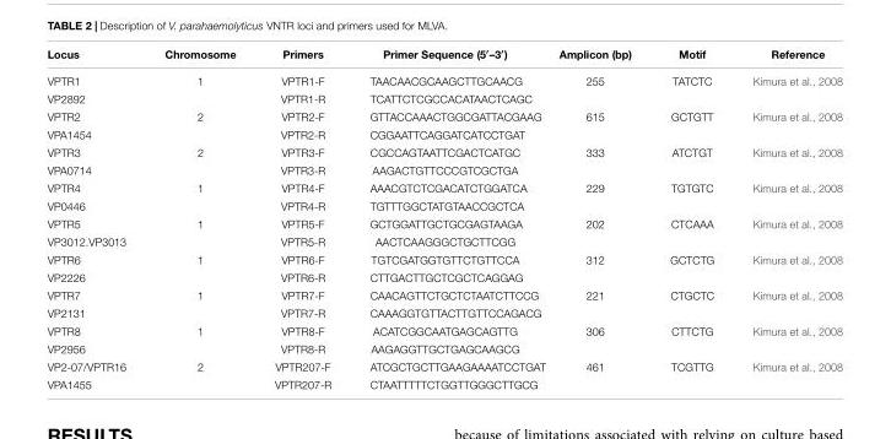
<table><thead><tr><td>Locus</td><td>Chromosome</td><td>Primers</td><td>Primer Sequence (5′–3′)</td><td>Amplicon (bp)</td><td>Motif</td><td>Reference</td></tr></thead><tbody><tr><td>VPTR1</td><td>1</td><td>VPTR1-F</td><td>TAACAACGCAAGCTTGCAACG</td><td>255</td><td>TATCTC</td><td>Kimura et al., 2008</td></tr><tr><td>VP2892</td><td></td><td>VPTR1-R</td><td>TCATTCTCGCCACATAACTCAGC</td><td></td><td></td><td></td></tr><tr><td>VPTR2</td><td>2</td><td>VPTR2-F</td><td>GTTACCAAACTGGCGATTACGAAG</td><td>615</td><td>GCTGTT</td><td>Kimura et al., 2008</td></tr><tr><td>VPA1454</td><td></td><td>VPTR2-R</td><td>CGGAATTCAGGATCATCCTGAT</td><td></td><td></td><td></td></tr><tr><td>VPTR3</td><td>2</td><td>VPTR3-F</td><td>CGCCAGTAATTCGACTCATGC</td><td>333</td><td>ATCTGT</td><td>Kimura et al., 2008</td></tr><tr><td>VPA0714</td><td></td><td>VPTR3-R</td><td>AAGACTGTTCCCGTCGCTGA</td><td></td><td></td><td></td></tr><tr><td>VPTR4</td><td>1</td><td>VPTR4-F</td><td>AAACGTCTCGACATCTGGATCA</td><td>229</td><td>TGTGTC</td><td>Kimura et al., 2008</td></tr><tr><td>VP0446</td><td></td><td>VPTR4-R</td><td>TGTTTGGCTATGTAACCGCTCA</td><td></td><td></td><td></td></tr><tr><td>VPTR5</td><td>1</td><td>VPTR5-F</td><td>GCTGGATTGCTGCGAGTAAGA</td><td>202</td><td>CTCAAA</td><td>Kimura et al., 2008</td></tr><tr><td>VP3012.VP3013</td><td></td><td>VPTR5-R</td><td>AACTCAAGGGCTGCTTCGG</td><td></td><td></td><td></td></tr><tr><td>VPTR6</td><td>1</td><td>VPTR6-F</td><td>TGTCGATGGTGTTCTGTTCCA</td><td>312</td><td>GCTCTG</td><td>Kimura et al., 2008</td></tr><tr><td>VP2226</td><td></td><td>VPTR6-R</td><td>CTTGACTTGCTCGCTCAGGAG</td><td></td><td></td><td></td></tr><tr><td>VPTR7</td><td>1</td><td>VPTR7-F</td><td>CAACAGTTCTGCTCTAATCTTCCG</td><td>221</td><td>CTGCTC</td><td>Kimura et al., 2008</td></tr><tr><td>VP2131</td><td></td><td>VPTR7-R</td><td>CAAAGGTGTTACTTGTTCCAGACG</td><td></td><td></td><td></td></tr><tr><td>VPTR8</td><td>1</td><td>VPTR8-F</td><td>ACATCGGCAATGAGCAGTTG</td><td>306</td><td>CTTCTG</td><td>Kimura et al., 2008</td></tr><tr><td>VP2956</td><td></td><td>VPTR8-R</td><td>AAGAGGTTGCTGAGCAAGCG</td><td></td><td></td><td></td></tr><tr><td>VP2-07/VPTR16</td><td>2</td><td>VPTR207-F</td><td>ATCGCTGCTTGAAGAAAATCCTGAT</td><td>461</td><td>TCGTTG</td><td>Kimura et al., 2008</td></tr><tr><td>VPA1455</td><td></td><td>VPTR207-R</td><td>CTAATTTTTCTGGTTGGGCTTGCG</td><td></td><td></td><td></td></tr></tbody></table>